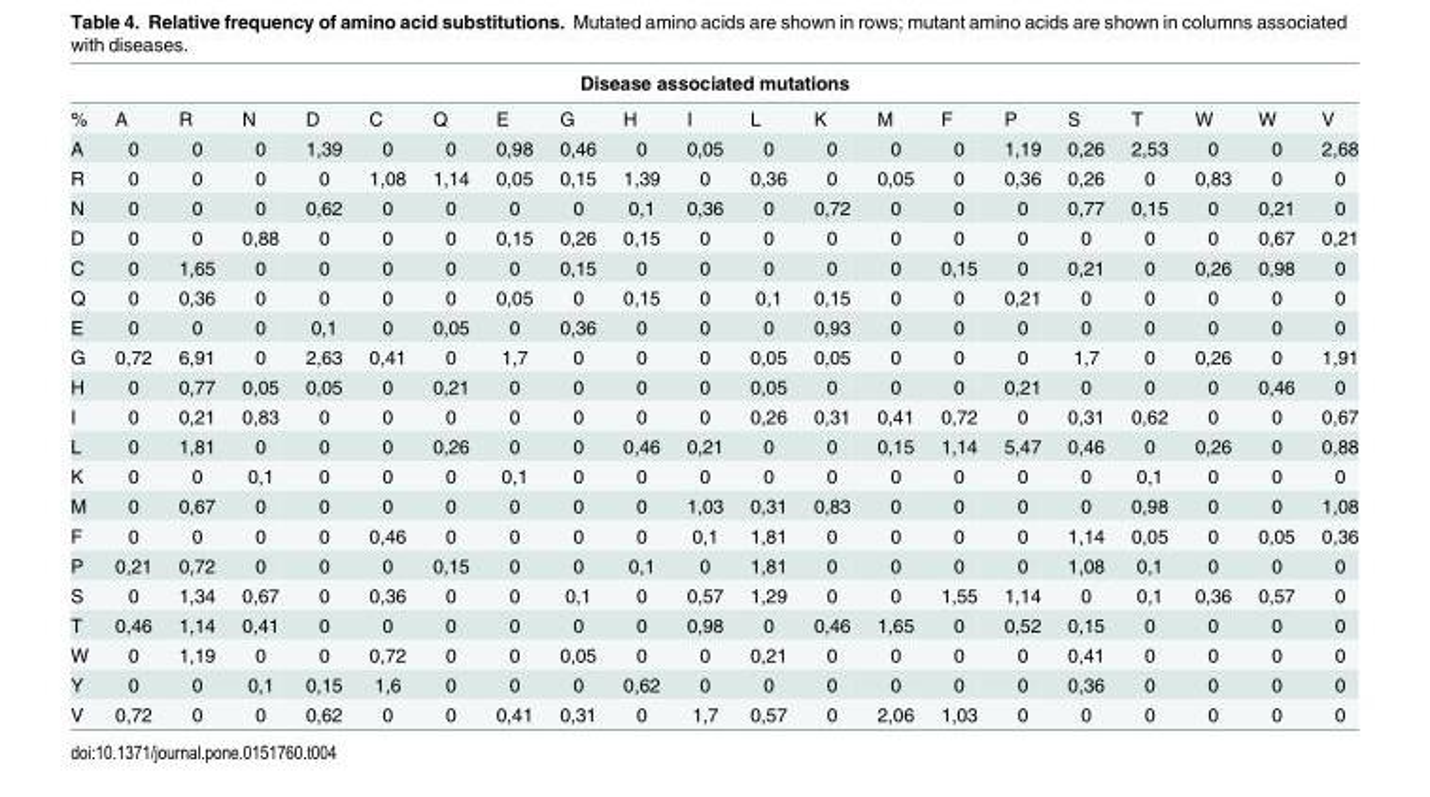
<table><thead><tr><td colspan="21">Disease associated mutations</td></tr><tr><td>%</td><td>A</td><td>R</td><td>N</td><td>D</td><td>C</td><td>Q</td><td>E</td><td>G</td><td>H</td><td>I</td><td>L</td><td>K</td><td>M</td><td>F</td><td>P</td><td>S</td><td>T</td><td>W</td><td>W</td><td>V</td></tr></thead><tbody><tr><td>A</td><td>0</td><td>0</td><td>0</td><td>1,39</td><td>0</td><td>0</td><td>0,98</td><td>0,46</td><td>0</td><td>0,05</td><td>0</td><td>0</td><td>0</td><td>0</td><td>1,19</td><td>0,26</td><td>2,53</td><td>0</td><td>0</td><td>2,68</td></tr><tr><td>R</td><td>0</td><td>0</td><td>0</td><td>0</td><td>1,08</td><td>1,14</td><td>0,05</td><td>0,15</td><td>1,39</td><td>0</td><td>0,36</td><td>0</td><td>0,05</td><td>0</td><td>0,36</td><td>0,26</td><td>0</td><td>0,83</td><td>0</td><td>0</td></tr><tr><td>N</td><td>0</td><td>0</td><td>0</td><td>0,62</td><td>0</td><td>0</td><td>0</td><td>0</td><td>0,1</td><td>0,36</td><td>0</td><td>0,72</td><td>0</td><td>0</td><td>0</td><td>0,77</td><td>0,15</td><td>0</td><td>0,21</td><td>0</td></tr><tr><td>D</td><td>0</td><td>0</td><td>0,88</td><td>0</td><td>0</td><td>0</td><td>0,15</td><td>0,26</td><td>0,15</td><td>0</td><td>0</td><td>0</td><td>0</td><td>0</td><td>0</td><td>0</td><td>0</td><td>0</td><td>0,67</td><td>0,21</td></tr><tr><td>C</td><td>0</td><td>1,65</td><td>0</td><td>0</td><td>0</td><td>0</td><td>0</td><td>0,15</td><td>0</td><td>0</td><td>0</td><td>0</td><td>0</td><td>0,15</td><td>0</td><td>0,21</td><td>0</td><td>0,26</td><td>0,98</td><td>0</td></tr><tr><td>Q</td><td>0</td><td>0,36</td><td>0</td><td>0</td><td>0</td><td>0</td><td>0,05</td><td>0</td><td>0,15</td><td>0</td><td>0,1</td><td>0,15</td><td>0</td><td>0</td><td>0,21</td><td>0</td><td>0</td><td>0</td><td>0</td><td>0</td></tr><tr><td>E</td><td>0</td><td>0</td><td>0</td><td>0,1</td><td>0</td><td>0,05</td><td>0</td><td>0,36</td><td>0</td><td>0</td><td>0</td><td>0,93</td><td>0</td><td>0</td><td>0</td><td>0</td><td>0</td><td>0</td><td>0</td><td>0</td></tr><tr><td>G</td><td>0,72</td><td>6,91</td><td>0</td><td>2,63</td><td>0,41</td><td>0</td><td>1,7</td><td>0</td><td>0</td><td>0</td><td>0,05</td><td>0,05</td><td>0</td><td>0</td><td>0</td><td>1,7</td><td>0</td><td>0,26</td><td>0</td><td>1,91</td></tr><tr><td>H</td><td>0</td><td>0,77</td><td>0,05</td><td>0,05</td><td>0</td><td>0,21</td><td>0</td><td>0</td><td>0</td><td>0</td><td>0,05</td><td>0</td><td>0</td><td>0</td><td>0,21</td><td>0</td><td>0</td><td>0</td><td>0,46</td><td>0</td></tr><tr><td>I</td><td>0</td><td>0,21</td><td>0,83</td><td>0</td><td>0</td><td>0</td><td>0</td><td>0</td><td>0</td><td>0</td><td>0,26</td><td>0,31</td><td>0,41</td><td>0,72</td><td>0</td><td>0,31</td><td>0,62</td><td>0</td><td>0</td><td>0,67</td></tr><tr><td>L</td><td>0</td><td>1,81</td><td>0</td><td>0</td><td>0</td><td>0,26</td><td>0</td><td>0</td><td>0,46</td><td>0,21</td><td>0</td><td>0</td><td>0,15</td><td>1,14</td><td>5,47</td><td>0,46</td><td>0</td><td>0,26</td><td>0</td><td>0,88</td></tr><tr><td>K</td><td>0</td><td>0</td><td>0,1</td><td>0</td><td>0</td><td>0</td><td>0,1</td><td>0</td><td>0</td><td>0</td><td>0</td><td>0</td><td>0</td><td>0</td><td>0</td><td>0</td><td>0,1</td><td>0</td><td>0</td><td>0</td></tr><tr><td>M</td><td>0</td><td>0,67</td><td>0</td><td>0</td><td>0</td><td>0</td><td>0</td><td>0</td><td>0</td><td>1,03</td><td>0,31</td><td>0,83</td><td>0</td><td>0</td><td>0</td><td>0</td><td>0,98</td><td>0</td><td>0</td><td>1,08</td></tr><tr><td>F</td><td>0</td><td>0</td><td>0</td><td>0</td><td>0,46</td><td>0</td><td>0</td><td>0</td><td>0</td><td>0,1</td><td>1,81</td><td>0</td><td>0</td><td>0</td><td>0</td><td>1,14</td><td>0,05</td><td>0</td><td>0,05</td><td>0,36</td></tr><tr><td>P</td><td>0,21</td><td>0,72</td><td>0</td><td>0</td><td>0</td><td>0,15</td><td>0</td><td>0</td><td>0,1</td><td>0</td><td>1,81</td><td>0</td><td>0</td><td>0</td><td>0</td><td>1,08</td><td>0,1</td><td>0</td><td>0</td><td>0</td></tr><tr><td>S</td><td>0</td><td>1,34</td><td>0,67</td><td>0</td><td>0,36</td><td>0</td><td>0</td><td>0,1</td><td>0</td><td>0,57</td><td>1,29</td><td>0</td><td>0</td><td>1,55</td><td>1,14</td><td>0</td><td>0,1</td><td>0,36</td><td>0,57</td><td>0</td></tr><tr><td>T</td><td>0,46</td><td>1,14</td><td>0,41</td><td>0</td><td>0</td><td>0</td><td>0</td><td>0</td><td>0</td><td>0,98</td><td>0</td><td>0,46</td><td>1,65</td><td>0</td><td>0,52</td><td>0,15</td><td>0</td><td>0</td><td>0</td><td>0</td></tr><tr><td>W</td><td>0</td><td>1,19</td><td>0</td><td>0</td><td>0,72</td><td>0</td><td>0</td><td>0,05</td><td>0</td><td>0</td><td>0,21</td><td>0</td><td>0</td><td>0</td><td>0</td><td>0,41</td><td>0</td><td>0</td><td>0</td><td>0</td></tr><tr><td>Y</td><td>0</td><td>0</td><td>0,1</td><td>0,15</td><td>1,6</td><td>0</td><td>0</td><td>0</td><td>0,62</td><td>0</td><td>0</td><td>0</td><td>0</td><td>0</td><td>0</td><td>0,36</td><td>0</td><td>0</td><td>0</td><td>0</td></tr><tr><td>V</td><td>0,72</td><td>0</td><td>0</td><td>0,62</td><td>0</td><td>0</td><td>0,41</td><td>0,31</td><td>0</td><td>1,7</td><td>0,57</td><td>0</td><td>2,06</td><td>1,03</td><td>0</td><td>0</td><td>0</td><td>0</td><td>0</td><td>0</td></tr></tbody></table>